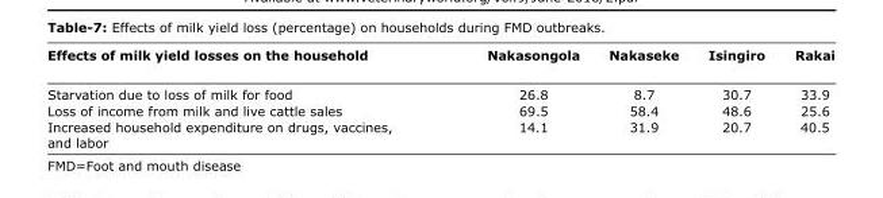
<table><thead><tr><td>Effects of milk yield losses on the household</td><td>Nakasongola</td><td>Nakaseke</td><td>Isingiro</td><td>Rakai</td></tr></thead><tbody><tr><td>Starvation due to loss of milk for food</td><td>26.8</td><td>8.7</td><td>30.7</td><td>33.9</td></tr><tr><td>Loss of income from milk and live cattle sales</td><td>69.5</td><td>58.4</td><td>48.6</td><td>25.6</td></tr><tr><td>Increased household expenditure on drugs, vaccines, and labor</td><td>14.1</td><td>31.9</td><td>20.7</td><td>40.5</td></tr></tbody></table>